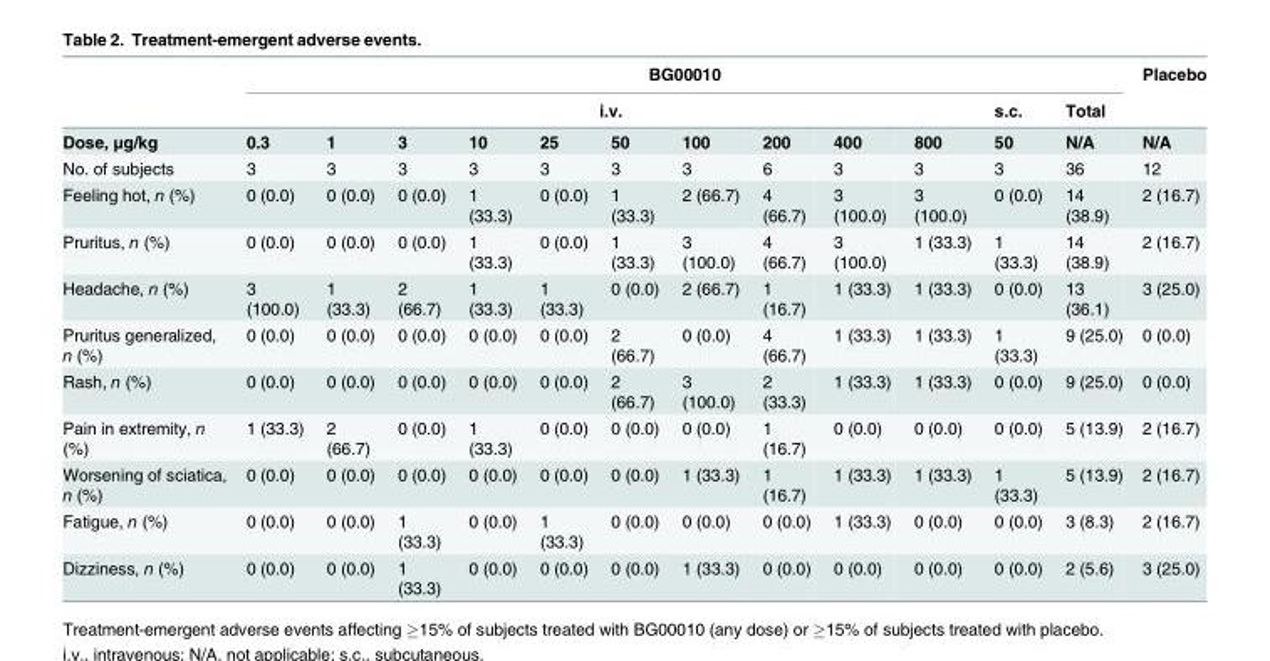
<table><thead><tr><td rowspan="3">Dose, μg/kg</td><td colspan="12">BG00010</td><td rowspan="3">Placebo N/A</td></tr><tr><td colspan="10">i.v.</td><td rowspan="2">s.c. 50</td><td rowspan="2">Total N/A</td></tr><tr><td>0.3</td><td>1</td><td>3</td><td>10</td><td>25</td><td>50</td><td>100</td><td>200</td><td>400</td><td>800</td></tr></thead><tbody><tr><td>No. of subjects</td><td>3</td><td>3</td><td>3</td><td>3</td><td>3</td><td>3</td><td>3</td><td>6</td><td>3</td><td>3</td><td>3</td><td>36</td><td>12</td></tr><tr><td>Feeling hot, n (%)</td><td>0 (0.0)</td><td>0 (0.0)</td><td>0 (0.0)</td><td>1 (33.3)</td><td>0 (0.0)</td><td>1 (33.3)</td><td>2 (66.7)</td><td>4 (66.7)</td><td>3 (100.0)</td><td>3 (100.0)</td><td>0 (0.0)</td><td>14 (38.9)</td><td>2 (16.7)</td></tr><tr><td>Pruritus, n (%)</td><td>0 (0.0)</td><td>0 (0.0)</td><td>0 (0.0)</td><td>1 (33.3)</td><td>0 (0.0)</td><td>1 (33.3)</td><td>3 (100.0)</td><td>4 (66.7)</td><td>3 (100.0)</td><td>1 (33.3)</td><td>1 (33.3)</td><td>14 (38.9)</td><td>2 (16.7)</td></tr><tr><td>Headache, n (%)</td><td>3 (100.0)</td><td>1 (33.3)</td><td>2 (66.7)</td><td>1 (33.3)</td><td>1 (33.3)</td><td>0 (0.0)</td><td>2 (66.7)</td><td>1 (16.7)</td><td>1 (33.3)</td><td>1 (33.3)</td><td>0 (0.0)</td><td>13 (36.1)</td><td>3 (25.0)</td></tr><tr><td>Pruritus generalized, n (%)</td><td>0 (0.0)</td><td>0 (0.0)</td><td>0 (0.0)</td><td>0 (0.0)</td><td>0 (0.0)</td><td>2 (66.7)</td><td>0 (0.0)</td><td>4 (66.7)</td><td>1 (33.3)</td><td>1 (33.3)</td><td>1 (33.3)</td><td>9 (25.0)</td><td>0 (0.0)</td></tr><tr><td>Rash, n (%)</td><td>0 (0.0)</td><td>0 (0.0)</td><td>0 (0.0)</td><td>0 (0.0)</td><td>0 (0.0)</td><td>2 (66.7)</td><td>3 (100.0)</td><td>2 (33.3)</td><td>1 (33.3)</td><td>1 (33.3)</td><td>0 (0.0)</td><td>9 (25.0)</td><td>0 (0.0)</td></tr><tr><td>Pain in extremity, n (%)</td><td>1 (33.3)</td><td>2 (66.7)</td><td>0 (0.0)</td><td>1 (33.3)</td><td>0 (0.0)</td><td>0 (0.0)</td><td>0 (0.0)</td><td>1 (16.7)</td><td>0 (0.0)</td><td>0 (0.0)</td><td>0 (0.0)</td><td>5 (13.9)</td><td>2 (16.7)</td></tr><tr><td>Worsening of sciatica, n (%)</td><td>0 (0.0)</td><td>0 (0.0)</td><td>0 (0.0)</td><td>0 (0.0)</td><td>0 (0.0)</td><td>0 (0.0)</td><td>1 (33.3)</td><td>1 (16.7)</td><td>1 (33.3)</td><td>1 (33.3)</td><td>1 (33.3)</td><td>5 (13.9)</td><td>2 (16.7)</td></tr><tr><td>Fatigue, n (%)</td><td>0 (0.0)</td><td>0 (0.0)</td><td>1 (33.3)</td><td>0 (0.0)</td><td>1 (33.3)</td><td>0 (0.0)</td><td>0 (0.0)</td><td>0 (0.0)</td><td>1 (33.3)</td><td>0 (0.0)</td><td>0 (0.0)</td><td>3 (8.3)</td><td>2 (16.7)</td></tr><tr><td>Dizziness, n (%)</td><td>0 (0.0)</td><td>0 (0.0)</td><td>1 (33.3)</td><td>0 (0.0)</td><td>0 (0.0)</td><td>0 (0.0)</td><td>1 (33.3)</td><td>0 (0.0)</td><td>0 (0.0)</td><td>0 (0.0)</td><td>0 (0.0)</td><td>2 (5.6)</td><td>3 (25.0)</td></tr></tbody></table>